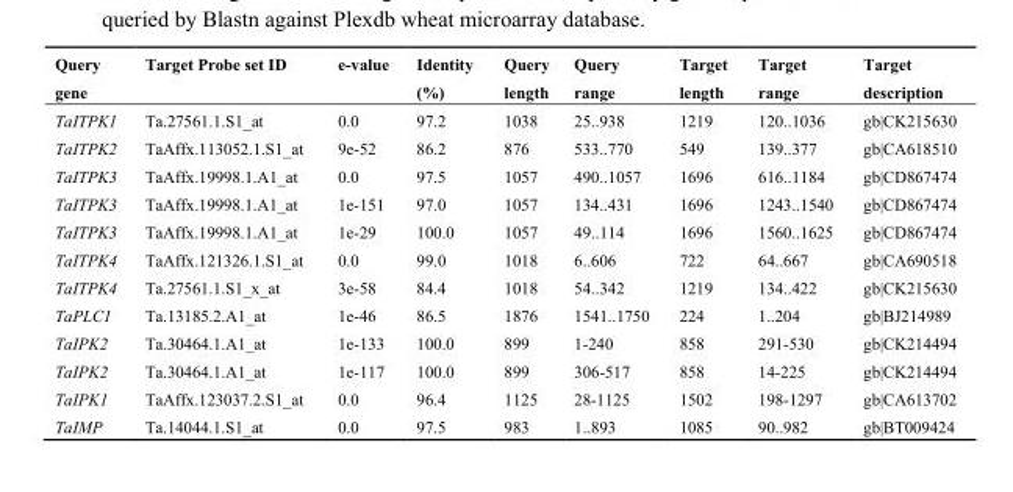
<table><thead><tr><td>Query gene</td><td>Target Probe set ID</td><td>e-value</td><td>Identity (%)</td><td>Query length</td><td>Query range</td><td>Target length</td><td>Target range</td><td>Target description</td></tr></thead><tbody><tr><td>TaITPK1</td><td>Ta.27561.1.S1_at</td><td>0.0</td><td>97.2</td><td>1038</td><td>25..938</td><td>1219</td><td>120..1036</td><td>gb|CK215630</td></tr><tr><td>TaITPK2</td><td>TaAffx.113052.1.S1_at</td><td>9e-52</td><td>86.2</td><td>876</td><td>533..770</td><td>549</td><td>139..377</td><td>gb|CA618510</td></tr><tr><td>TaITPK3</td><td>TaAffx.19998.1.A1_at</td><td>0.0</td><td>97.5</td><td>1057</td><td>490..1057</td><td>1696</td><td>616..1184</td><td>gb|CD867474</td></tr><tr><td>TaITPK3</td><td>TaAffx.19998.1.A1_at</td><td>1e-151</td><td>97.0</td><td>1057</td><td>134..431</td><td>1696</td><td>1243..1540</td><td>gb|CD867474</td></tr><tr><td>TaITPK3</td><td>TaAffx.19998.1.A1_at</td><td>1e-29</td><td>100.0</td><td>1057</td><td>49..114</td><td>1696</td><td>1560..1625</td><td>gb|CD867474</td></tr><tr><td>TaITPK4</td><td>TaAffx.121326.1.S1_at</td><td>0.0</td><td>99.0</td><td>1018</td><td>6..606</td><td>722</td><td>64..667</td><td>gb|CA690518</td></tr><tr><td>TaITPK4</td><td>Ta.27561.1.S1_x_at</td><td>3e-58</td><td>84.4</td><td>1018</td><td>54..342</td><td>1219</td><td>134..422</td><td>gb|CK215630</td></tr><tr><td>TaPLC1</td><td>Ta.13185.2.A1_at</td><td>1e-46</td><td>86.5</td><td>1876</td><td>1541..1750</td><td>224</td><td>1..204</td><td>gb|BJ214989</td></tr><tr><td>TaIPK2</td><td>Ta.30464.1.A1_at</td><td>1e-133</td><td>100.0</td><td>899</td><td>1-240</td><td>858</td><td>291-530</td><td>gb|CK214494</td></tr><tr><td>TaIPK2</td><td>Ta.30464.1.A1_at</td><td>1e-117</td><td>100.0</td><td>899</td><td>306-517</td><td>858</td><td>14-225</td><td>gb|CK214494</td></tr><tr><td>TaIPK1</td><td>TaAffx.123037.2.S1_at</td><td>0.0</td><td>96.4</td><td>1125</td><td>28-1125</td><td>1502</td><td>198-1297</td><td>gb|CA613702</td></tr><tr><td>TaIMP</td><td>Ta.14044.1.S1_at</td><td>0.0</td><td>97.5</td><td>983</td><td>1..893</td><td>1085</td><td>90..982</td><td>gb|BT009424</td></tr></tbody></table>